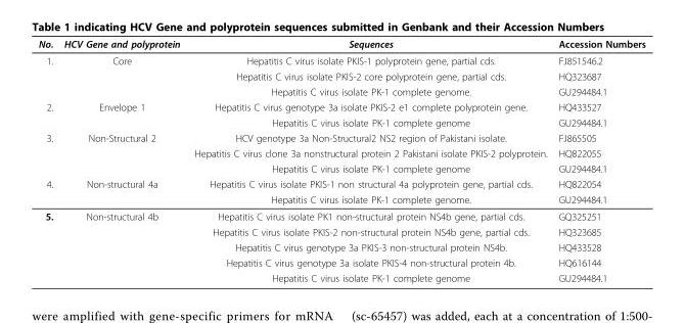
<table><thead><tr><td>No.</td><td>HCV Gene and polyprotein</td><td>Sequences</td><td>Accession Numbers</td></tr></thead><tbody><tr><td rowspan="3">1.</td><td>Core</td><td>Hepatitis C virus isolate PKIS-1 polyprotein gene, partial cds.</td><td>FJ851546.2</td></tr><tr><td></td><td>Hepatitis C virus isolate PKIS-2 core polyprotein gene, partial cds.</td><td>HQ323687</td></tr><tr><td></td><td>Hepatitis C virus isolate PK-1 complete genome.</td><td>GU294484.1</td></tr><tr><td rowspan="2">2.</td><td>Envelope 1</td><td>Hepatitis C virus genotype 3a isolate PKIS-2 e1 complete polyprotein gene.</td><td>HQ433527</td></tr><tr><td></td><td>Hepatitis C virus isolate PK-1 complete genome</td><td>GU294484.1</td></tr><tr><td rowspan="3">3.</td><td>Non-Structural 2</td><td>HCV genotype 3a Non-Structural2 NS2 region of Pakistani isolate.</td><td>FJ865505</td></tr><tr><td></td><td>Hepatitis C virus clone 3a nonstructural protein 2 Pakistani isolate PKIS-2 polyprotein.</td><td>HQ822055</td></tr><tr><td></td><td>Hepatitis C virus isolate PK-1 complete genome</td><td>GU294484.1</td></tr><tr><td rowspan="2">4.</td><td>Non-structural 4a</td><td>Hepatitis C virus isolate PKIS-1 non structural 4a polyprotein gene, partial cds.</td><td>HQ822054</td></tr><tr><td></td><td>Hepatitis C virus isolate PK-1 complete genome.</td><td>GU294484.1</td></tr><tr><td rowspan="5">5.</td><td>Non-structural 4b</td><td>Hepatitis C virus isolate PK1 non-structural protein NS4b gene, partial cds.</td><td>GQ325251</td></tr><tr><td></td><td>Hepatitis C virus isolate PKIS-2 non-structural protein NS4b gene, partial cds.</td><td>HQ323685</td></tr><tr><td></td><td>Hepatitis C virus genotype 3a PKIS-3 non-structural protein NS4b.</td><td>HQ433528</td></tr><tr><td></td><td>Hepatitis C virus genotype 3a isolate PKIS-4 non-structural protein 4b.</td><td>HQ616144</td></tr><tr><td></td><td>Hepatitis C virus isolate PK-1 complete genome</td><td>GU294484.1</td></tr></tbody></table>